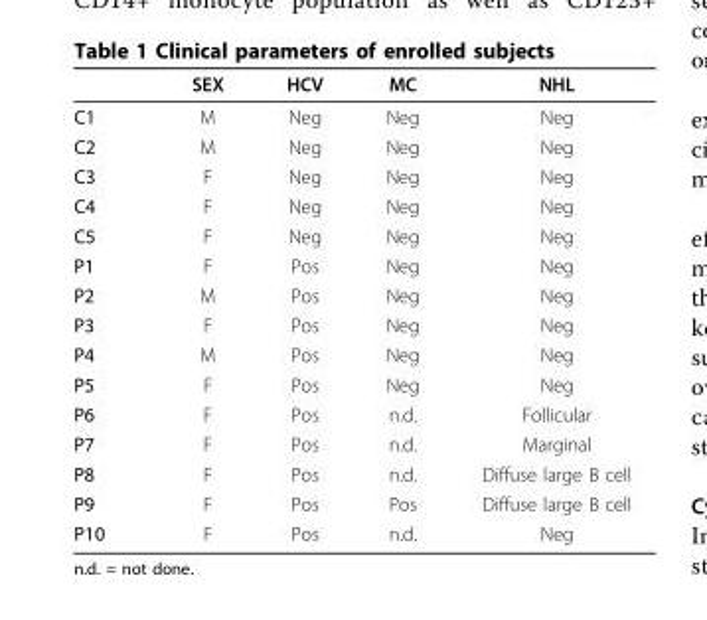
<table><thead><tr><td></td><td>SEX</td><td>HCV</td><td>MC</td><td>NHL</td></tr></thead><tbody><tr><td>C1</td><td>M</td><td>Neg</td><td>Neg</td><td>Neg</td></tr><tr><td>C2</td><td>M</td><td>Neg</td><td>Neg</td><td>Neg</td></tr><tr><td>C3</td><td>F</td><td>Neg</td><td>Neg</td><td>Neg</td></tr><tr><td>C4</td><td>F</td><td>Neg</td><td>Neg</td><td>Neg</td></tr><tr><td>C5</td><td>F</td><td>Neg</td><td>Neg</td><td>Neg</td></tr><tr><td>P1</td><td>F</td><td>Pos</td><td>Neg</td><td>Neg</td></tr><tr><td>P2</td><td>M</td><td>Pos</td><td>Neg</td><td>Neg</td></tr><tr><td>P3</td><td>F</td><td>Pos</td><td>Neg</td><td>Neg</td></tr><tr><td>P4</td><td>M</td><td>Pos</td><td>Neg</td><td>Neg</td></tr><tr><td>P5</td><td>F</td><td>Pos</td><td>Neg</td><td>Neg</td></tr><tr><td>P6</td><td>F</td><td>Pos</td><td>n.d.</td><td>Follicular</td></tr><tr><td>P7</td><td>F</td><td>Pos</td><td>n.d.</td><td>Marginal</td></tr><tr><td>P8</td><td>F</td><td>Pos</td><td>n.d.</td><td>Diffuse large B cell</td></tr><tr><td>P9</td><td>F</td><td>Pos</td><td>Pos</td><td>Diffuse large B cell</td></tr><tr><td>P10</td><td>F</td><td>Pos</td><td>n.d.</td><td>Neg</td></tr></tbody></table>